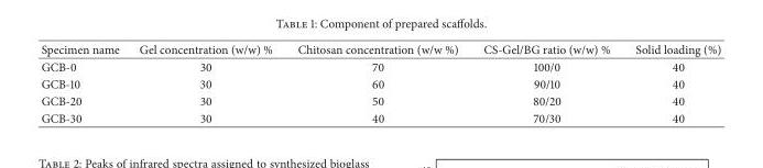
<table><thead><tr><td>Specimen name</td><td>Gel concentration (w/w) %</td><td>Chitosan concentration (w/w %)</td><td>CS-Gel/BG ratio (w/w) %</td><td>Solid loading (%)</td></tr></thead><tbody><tr><td>GCB-0</td><td>30</td><td>70</td><td>100/0</td><td>40</td></tr><tr><td>GCB-10</td><td>30</td><td>60</td><td>90/10</td><td>40</td></tr><tr><td>GCB-20</td><td>30</td><td>50</td><td>80/20</td><td>40</td></tr><tr><td>GCB-30</td><td>30</td><td>40</td><td>70/30</td><td>40</td></tr></tbody></table>